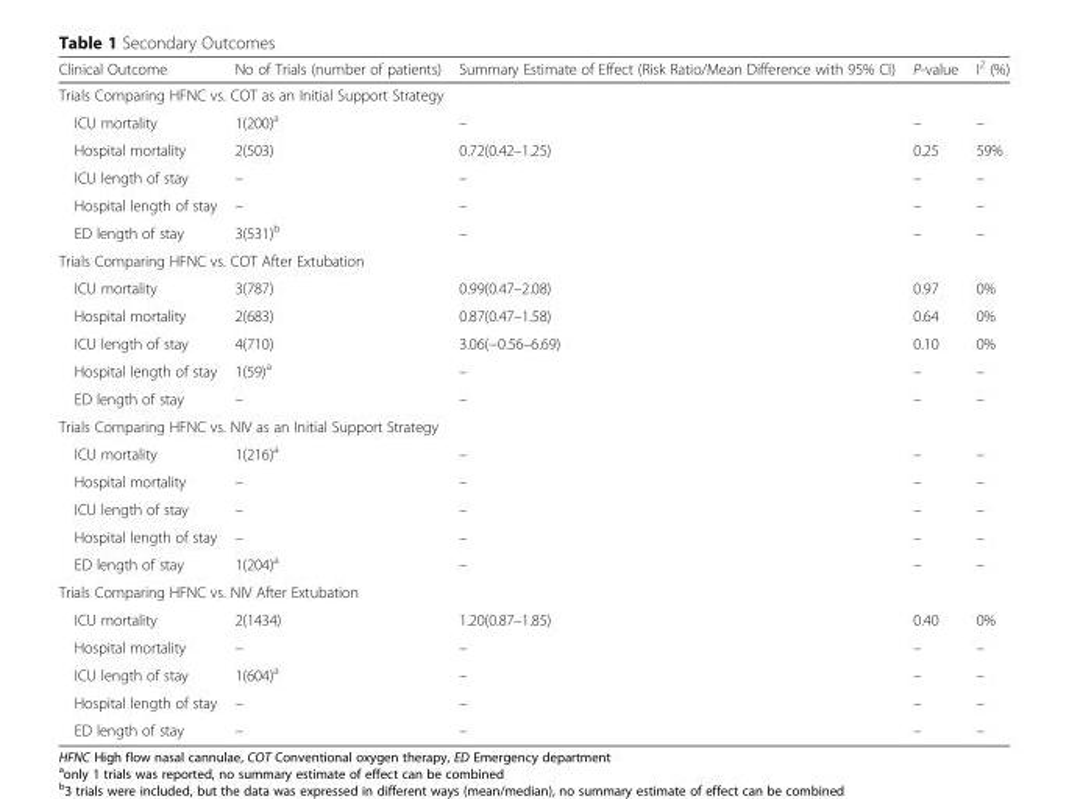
<table><thead><tr><td>Clinical Outcome</td><td>No of Trials (number of patients)</td><td>Summary Estimate of Effect (Risk Ratio/Mean Difference with 95% CI)</td><td>P-value</td><td>I<sup>2</sup> (%)</td></tr></thead><tbody><tr><td colspan="5">Trials Comparing HFNC vs. COT as an Initial Support Strategy</td></tr><tr><td>ICU mortality</td><td>1(200)<sup>a</sup></td><td>–</td><td>–</td><td>–</td></tr><tr><td>Hospital mortality</td><td>2(503)</td><td>0.72(0.42–1.25)</td><td>0.25</td><td>59%</td></tr><tr><td>ICU length of stay</td><td>–</td><td>–</td><td>–</td><td>–</td></tr><tr><td>Hospital length of stay</td><td>–</td><td>–</td><td>–</td><td>–</td></tr><tr><td>ED length of stay</td><td>3(531)<sup>b</sup></td><td>–</td><td>–</td><td>–</td></tr><tr><td colspan="5">Trials Comparing HFNC vs. COT After Extubation</td></tr><tr><td>ICU mortality</td><td>3(787)</td><td>0.99(0.47–2.08)</td><td>0.97</td><td>0%</td></tr><tr><td>Hospital mortality</td><td>2(683)</td><td>0.87(0.47–1.58)</td><td>0.64</td><td>0%</td></tr><tr><td>ICU length of stay</td><td>4(710)</td><td>3.06(−0.56–6.69)</td><td>0.10</td><td>0%</td></tr><tr><td>Hospital length of stay</td><td>1(59)<sup>a</sup></td><td>–</td><td>–</td><td>–</td></tr><tr><td>ED length of stay</td><td>–</td><td>–</td><td>–</td><td>–</td></tr><tr><td colspan="5">Trials Comparing HFNC vs. NIV as an Initial Support Strategy</td></tr><tr><td>ICU mortality</td><td>1(216)<sup>a</sup></td><td>–</td><td>–</td><td>–</td></tr><tr><td>Hospital mortality</td><td>–</td><td>–</td><td>–</td><td>–</td></tr><tr><td>ICU length of stay</td><td>–</td><td>–</td><td>–</td><td>–</td></tr><tr><td>Hospital length of stay</td><td>–</td><td>–</td><td>–</td><td>–</td></tr><tr><td>ED length of stay</td><td>1(204)<sup>a</sup></td><td>–</td><td>–</td><td>–</td></tr><tr><td colspan="5">Trials Comparing HFNC vs. NIV After Extubation</td></tr><tr><td>ICU mortality</td><td>2(1434)</td><td>1.20(0.87–1.85)</td><td>0.40</td><td>0%</td></tr><tr><td>Hospital mortality</td><td>–</td><td>–</td><td>–</td><td>–</td></tr><tr><td>ICU length of stay</td><td>1(604)<sup>a</sup></td><td>–</td><td>–</td><td>–</td></tr><tr><td>Hospital length of stay</td><td>–</td><td>–</td><td>–</td><td>–</td></tr><tr><td>ED length of stay</td><td>–</td><td>–</td><td>–</td><td>–</td></tr></tbody></table>